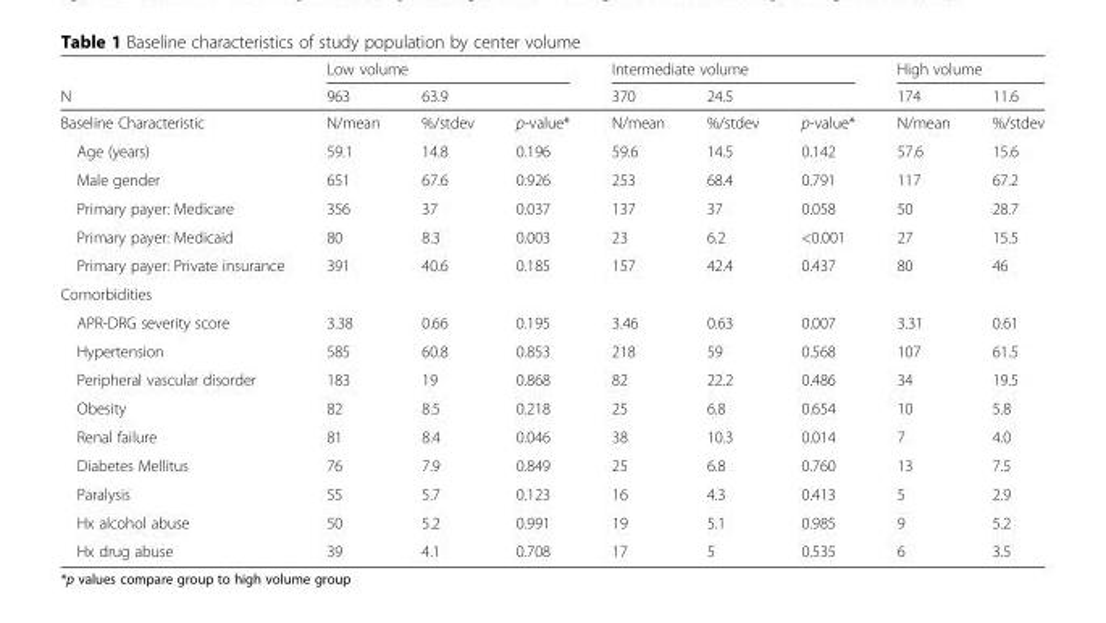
<table><thead><tr><td rowspan="2">N</td><td colspan="3">Low volume</td><td colspan="3">Intermediate volume</td><td colspan="2">High volume</td></tr><tr><td>963</td><td>63.9</td><td></td><td>370</td><td>24.5</td><td></td><td>174</td><td>11.6</td></tr></thead><tbody><tr><td>Baseline Characteristic</td><td>N/mean</td><td>%/stdev</td><td>p-value*</td><td>N/mean</td><td>%/stdev</td><td>p-value*</td><td>N/mean</td><td>%/stdev</td></tr><tr><td>Age (years)</td><td>59.1</td><td>14.8</td><td>0.196</td><td>59.6</td><td>14.5</td><td>0.142</td><td>57.6</td><td>15.6</td></tr><tr><td>Male gender</td><td>651</td><td>67.6</td><td>0.926</td><td>253</td><td>68.4</td><td>0.791</td><td>117</td><td>67.2</td></tr><tr><td>Primary payer: Medicare</td><td>356</td><td>37</td><td>0.037</td><td>137</td><td>37</td><td>0.058</td><td>50</td><td>28.7</td></tr><tr><td>Primary payer: Medicaid</td><td>80</td><td>8.3</td><td>0.003</td><td>23</td><td>6.2</td><td>&lt;0.001</td><td>27</td><td>15.5</td></tr><tr><td>Primary payer: Private insurance</td><td>391</td><td>40.6</td><td>0.185</td><td>157</td><td>42.4</td><td>0.437</td><td>80</td><td>46</td></tr><tr><td colspan="9">Comorbidities</td></tr><tr><td>APR-DRG severity score</td><td>3.38</td><td>0.66</td><td>0.195</td><td>3.46</td><td>0.63</td><td>0.007</td><td>3.31</td><td>0.61</td></tr><tr><td>Hypertension</td><td>585</td><td>60.8</td><td>0.853</td><td>218</td><td>59</td><td>0.568</td><td>107</td><td>61.5</td></tr><tr><td>Peripheral vascular disorder</td><td>183</td><td>19</td><td>0.868</td><td>82</td><td>22.2</td><td>0.486</td><td>34</td><td>19.5</td></tr><tr><td>Obesity</td><td>82</td><td>8.5</td><td>0.218</td><td>25</td><td>6.8</td><td>0.654</td><td>10</td><td>5.8</td></tr><tr><td>Renal failure</td><td>81</td><td>8.4</td><td>0.046</td><td>38</td><td>10.3</td><td>0.014</td><td>7</td><td>4.0</td></tr><tr><td>Diabetes Mellitus</td><td>76</td><td>7.9</td><td>0.849</td><td>25</td><td>6.8</td><td>0.760</td><td>13</td><td>7.5</td></tr><tr><td>Paralysis</td><td>55</td><td>5.7</td><td>0.123</td><td>16</td><td>4.3</td><td>0.413</td><td>5</td><td>2.9</td></tr><tr><td>Hx alcohol abuse</td><td>50</td><td>5.2</td><td>0.991</td><td>19</td><td>5.1</td><td>0.985</td><td>9</td><td>5.2</td></tr><tr><td>Hx drug abuse</td><td>39</td><td>4.1</td><td>0.708</td><td>17</td><td>5</td><td>0.535</td><td>6</td><td>3.5</td></tr></tbody></table>